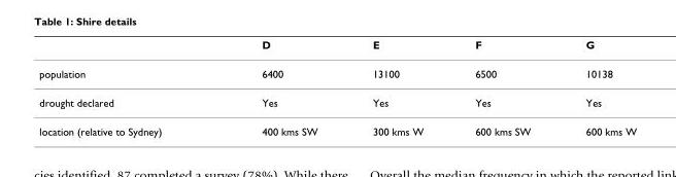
<table><thead><tr><td></td><td>D</td><td>E</td><td>F</td><td>G</td></tr></thead><tbody><tr><td>population</td><td>6400</td><td>13100</td><td>6500</td><td>10138</td></tr><tr><td>drought declared</td><td>Yes</td><td>Yes</td><td>Yes</td><td>Yes</td></tr><tr><td>location (relative to Sydney)</td><td>400 kms SW</td><td>300 kms W</td><td>600 kms SW</td><td>600 kms W</td></tr></tbody></table>